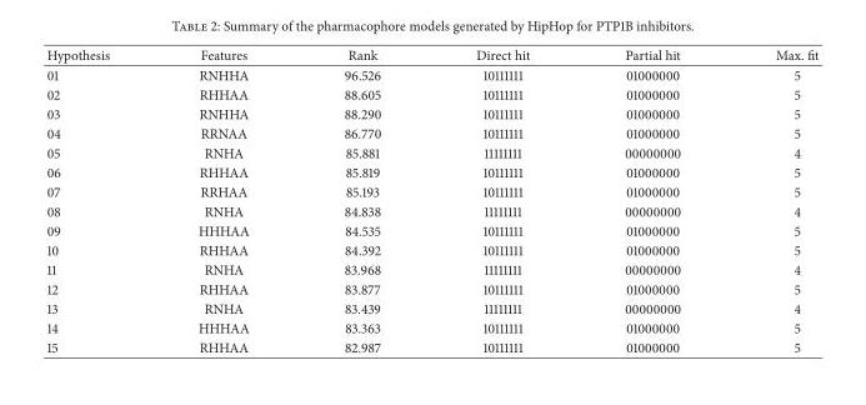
<table><thead><tr><td>Hypothesis</td><td>Features</td><td>Rank</td><td>Direct hit</td><td>Partial hit</td><td>Max. fit</td></tr></thead><tbody><tr><td>01</td><td>RNHHA</td><td>96.526</td><td>10111111</td><td>01000000</td><td>5</td></tr><tr><td>02</td><td>RHHAA</td><td>88.605</td><td>10111111</td><td>01000000</td><td>5</td></tr><tr><td>03</td><td>RNHHA</td><td>88.290</td><td>10111111</td><td>01000000</td><td>5</td></tr><tr><td>04</td><td>RRNAA</td><td>86.770</td><td>10111111</td><td>01000000</td><td>5</td></tr><tr><td>05</td><td>RNHA</td><td>85.881</td><td>11111111</td><td>00000000</td><td>4</td></tr><tr><td>06</td><td>RHHAA</td><td>85.819</td><td>10111111</td><td>01000000</td><td>5</td></tr><tr><td>07</td><td>RRHAA</td><td>85.193</td><td>10111111</td><td>01000000</td><td>5</td></tr><tr><td>08</td><td>RNHA</td><td>84.838</td><td>11111111</td><td>00000000</td><td>4</td></tr><tr><td>09</td><td>HHHAA</td><td>84.535</td><td>10111111</td><td>01000000</td><td>5</td></tr><tr><td>10</td><td>RHHAA</td><td>84.392</td><td>10111111</td><td>01000000</td><td>5</td></tr><tr><td>11</td><td>RNHA</td><td>83.968</td><td>11111111</td><td>00000000</td><td>4</td></tr><tr><td>12</td><td>RHHAA</td><td>83.877</td><td>10111111</td><td>01000000</td><td>5</td></tr><tr><td>13</td><td>RNHA</td><td>83.439</td><td>11111111</td><td>00000000</td><td>4</td></tr><tr><td>14</td><td>HHHAA</td><td>83.363</td><td>10111111</td><td>01000000</td><td>5</td></tr><tr><td>15</td><td>RHHAA</td><td>82.987</td><td>10111111</td><td>01000000</td><td>5</td></tr></tbody></table>